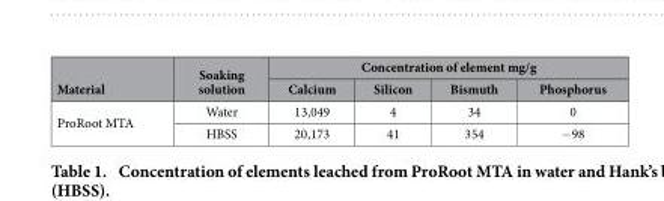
<table><thead><tr><td rowspan="2">Material</td><td rowspan="2">Soaking solution</td><td colspan="4">Concentration of element mg/g</td></tr><tr><td>Calcium</td><td>Silicon</td><td>Bismuth</td><td>Phosphorus</td></tr></thead><tbody><tr><td rowspan="2">ProRoot MTA</td><td>Water</td><td>13,049</td><td>4</td><td>34</td><td>0</td></tr><tr><td>HBSS</td><td>20,173</td><td>41</td><td>354</td><td>− 98</td></tr></tbody></table>